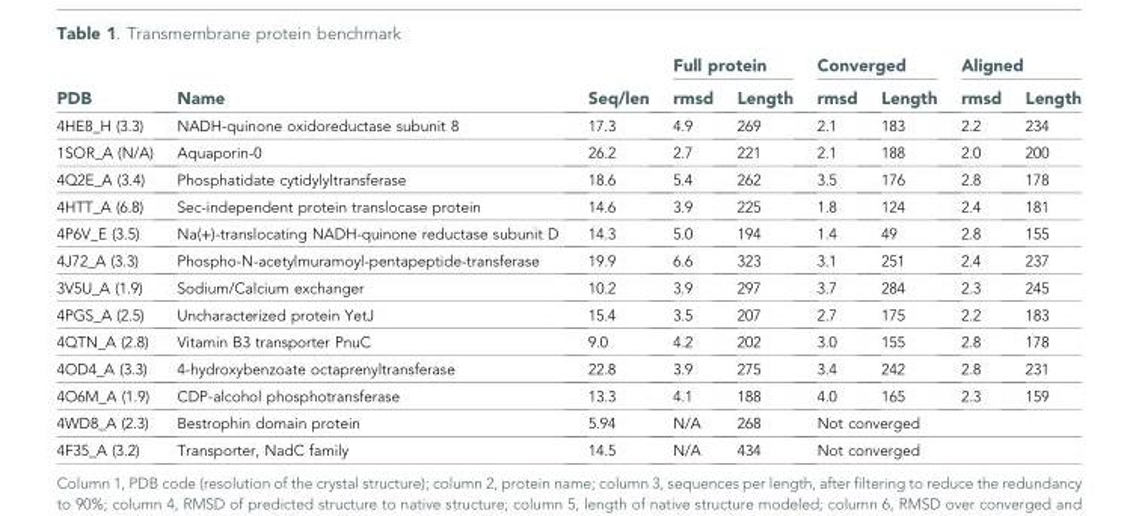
<table><thead><tr><td rowspan="2">PDB</td><td rowspan="2">Name</td><td rowspan="2">Seq/len</td><td colspan="2">Full protein</td><td colspan="2">Converged</td><td colspan="2">Aligned</td></tr><tr><td>rmsd</td><td>Length</td><td>rmsd</td><td>Length</td><td>rmsd</td><td>Length</td></tr></thead><tbody><tr><td>4HE8_H (3.3)</td><td>NADH-quinone oxidoreductase subunit 8</td><td>17.3</td><td>4.9</td><td>269</td><td>2.1</td><td>183</td><td>2.2</td><td>234</td></tr><tr><td>1SOR_A (N/A)</td><td>Aquaporin-0</td><td>26.2</td><td>2.7</td><td>221</td><td>2.1</td><td>188</td><td>2.0</td><td>200</td></tr><tr><td>4Q2E_A (3.4)</td><td>Phosphatidate cytidylyltransferase</td><td>18.6</td><td>5.4</td><td>262</td><td>3.5</td><td>176</td><td>2.8</td><td>178</td></tr><tr><td>4HTT_A (6.8)</td><td>Sec-independent protein translocase protein</td><td>14.6</td><td>3.9</td><td>225</td><td>1.8</td><td>124</td><td>2.4</td><td>181</td></tr><tr><td>4P6V_E (3.5)</td><td>Na(+)-translocating NADH-quinone reductase subunit D</td><td>14.3</td><td>5.0</td><td>194</td><td>1.4</td><td>49</td><td>2.8</td><td>155</td></tr><tr><td>4J72_A (3.3)</td><td>Phospho-N-acetylmuramoyl-pentapeptide-transferase</td><td>19.9</td><td>6.6</td><td>323</td><td>3.1</td><td>251</td><td>2.4</td><td>237</td></tr><tr><td>3V5U_A (1.9)</td><td>Sodium/Calcium exchanger</td><td>10.2</td><td>3.9</td><td>297</td><td>3.7</td><td>284</td><td>2.3</td><td>245</td></tr><tr><td>4PGS_A (2.5)</td><td>Uncharacterized protein YetJ</td><td>15.4</td><td>3.5</td><td>207</td><td>2.7</td><td>175</td><td>2.2</td><td>183</td></tr><tr><td>4QTN_A (2.8)</td><td>Vitamin B3 transporter PnuC</td><td>9.0</td><td>4.2</td><td>202</td><td>3.0</td><td>155</td><td>2.8</td><td>178</td></tr><tr><td>4OD4_A (3.3)</td><td>4-hydroxybenzoate octaprenyltransferase</td><td>22.8</td><td>3.9</td><td>275</td><td>3.4</td><td>242</td><td>2.8</td><td>231</td></tr><tr><td>4O6M_A (1.9)</td><td>CDP-alcohol phosphotransferase</td><td>13.3</td><td>4.1</td><td>188</td><td>4.0</td><td>165</td><td>2.3</td><td>159</td></tr><tr><td>4WD8_A (2.3)</td><td>Bestrophin domain protein</td><td>5.94</td><td>N/A</td><td>268</td><td colspan="4">Not converged</td></tr><tr><td>4F35_A (3.2)</td><td>Transporter, NadC family</td><td>14.5</td><td>N/A</td><td>434</td><td colspan="4">Not converged</td></tr></tbody></table>